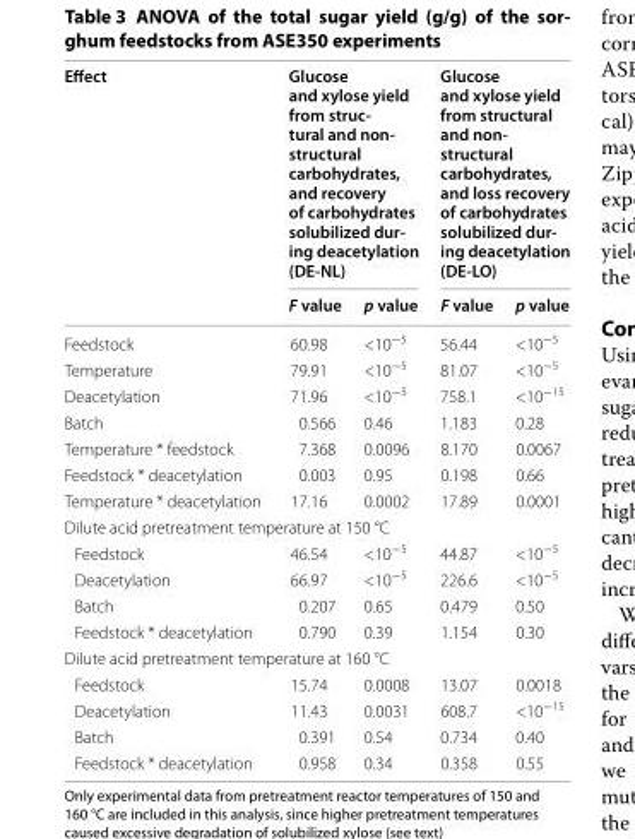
<table><thead><tr><td rowspan="2">Effect</td><td colspan="2">Glucose and xylose yield from struc- tural and non- structural carbohydrates, and recovery of carbohydrates solubilized dur- ing deacetylation (DE-NL)</td><td colspan="2">Glucose and xylose yield from structural and non- structural carbohydrates, and loss recovery of carbohydrates solubilized dur- ing deacetylation (DE-LO)</td></tr><tr><td>F value</td><td>p value</td><td>F value</td><td>p value</td></tr></thead><tbody><tr><td>Feedstock</td><td>60.98</td><td>&lt;10<sup>−5</sup></td><td>56.44</td><td>&lt;10<sup>−5</sup></td></tr><tr><td>Temperature</td><td>79.91</td><td>&lt;10<sup>−5</sup></td><td>81.07</td><td>&lt;10<sup>−5</sup></td></tr><tr><td>Deacetylation</td><td>71.96</td><td>&lt;10<sup>−5</sup></td><td>758.1</td><td>&lt;10<sup>−15</sup></td></tr><tr><td>Batch</td><td>0.566</td><td>0.46</td><td>1.183</td><td>0.28</td></tr><tr><td>Temperature * feedstock</td><td>7.368</td><td>0.0096</td><td>8.170</td><td>0.0067</td></tr><tr><td>Feedstock * deacetylation</td><td>0.003</td><td>0.95</td><td>0.198</td><td>0.66</td></tr><tr><td>Temperature * deacetylation</td><td>17.16</td><td>0.0002</td><td>17.89</td><td>0.0001</td></tr><tr><td colspan="5">Dilute acid pretreatment temperature at 150 °C</td></tr><tr><td>Feedstock</td><td>46.54</td><td>&lt;10<sup>−5</sup></td><td>44.87</td><td>&lt;10<sup>−5</sup></td></tr><tr><td>Deacetylation</td><td>66.97</td><td>&lt;10<sup>−5</sup></td><td>226.6</td><td>&lt;10<sup>−5</sup></td></tr><tr><td>Batch</td><td>0.207</td><td>0.65</td><td>0.479</td><td>0.50</td></tr><tr><td>Feedstock * deacetylation</td><td>0.790</td><td>0.39</td><td>1.154</td><td>0.30</td></tr><tr><td colspan="5">Dilute acid pretreatment temperature at 160 °C</td></tr><tr><td>Feedstock</td><td>15.74</td><td>0.0008</td><td>13.07</td><td>0.0018</td></tr><tr><td>Deacetylation</td><td>11.43</td><td>0.0031</td><td>608.7</td><td>&lt;10<sup>−15</sup></td></tr><tr><td>Batch</td><td>0.391</td><td>0.54</td><td>0.734</td><td>0.40</td></tr><tr><td>Feedstock * deacetylation</td><td>0.958</td><td>0.34</td><td>0.358</td><td>0.55</td></tr></tbody></table>